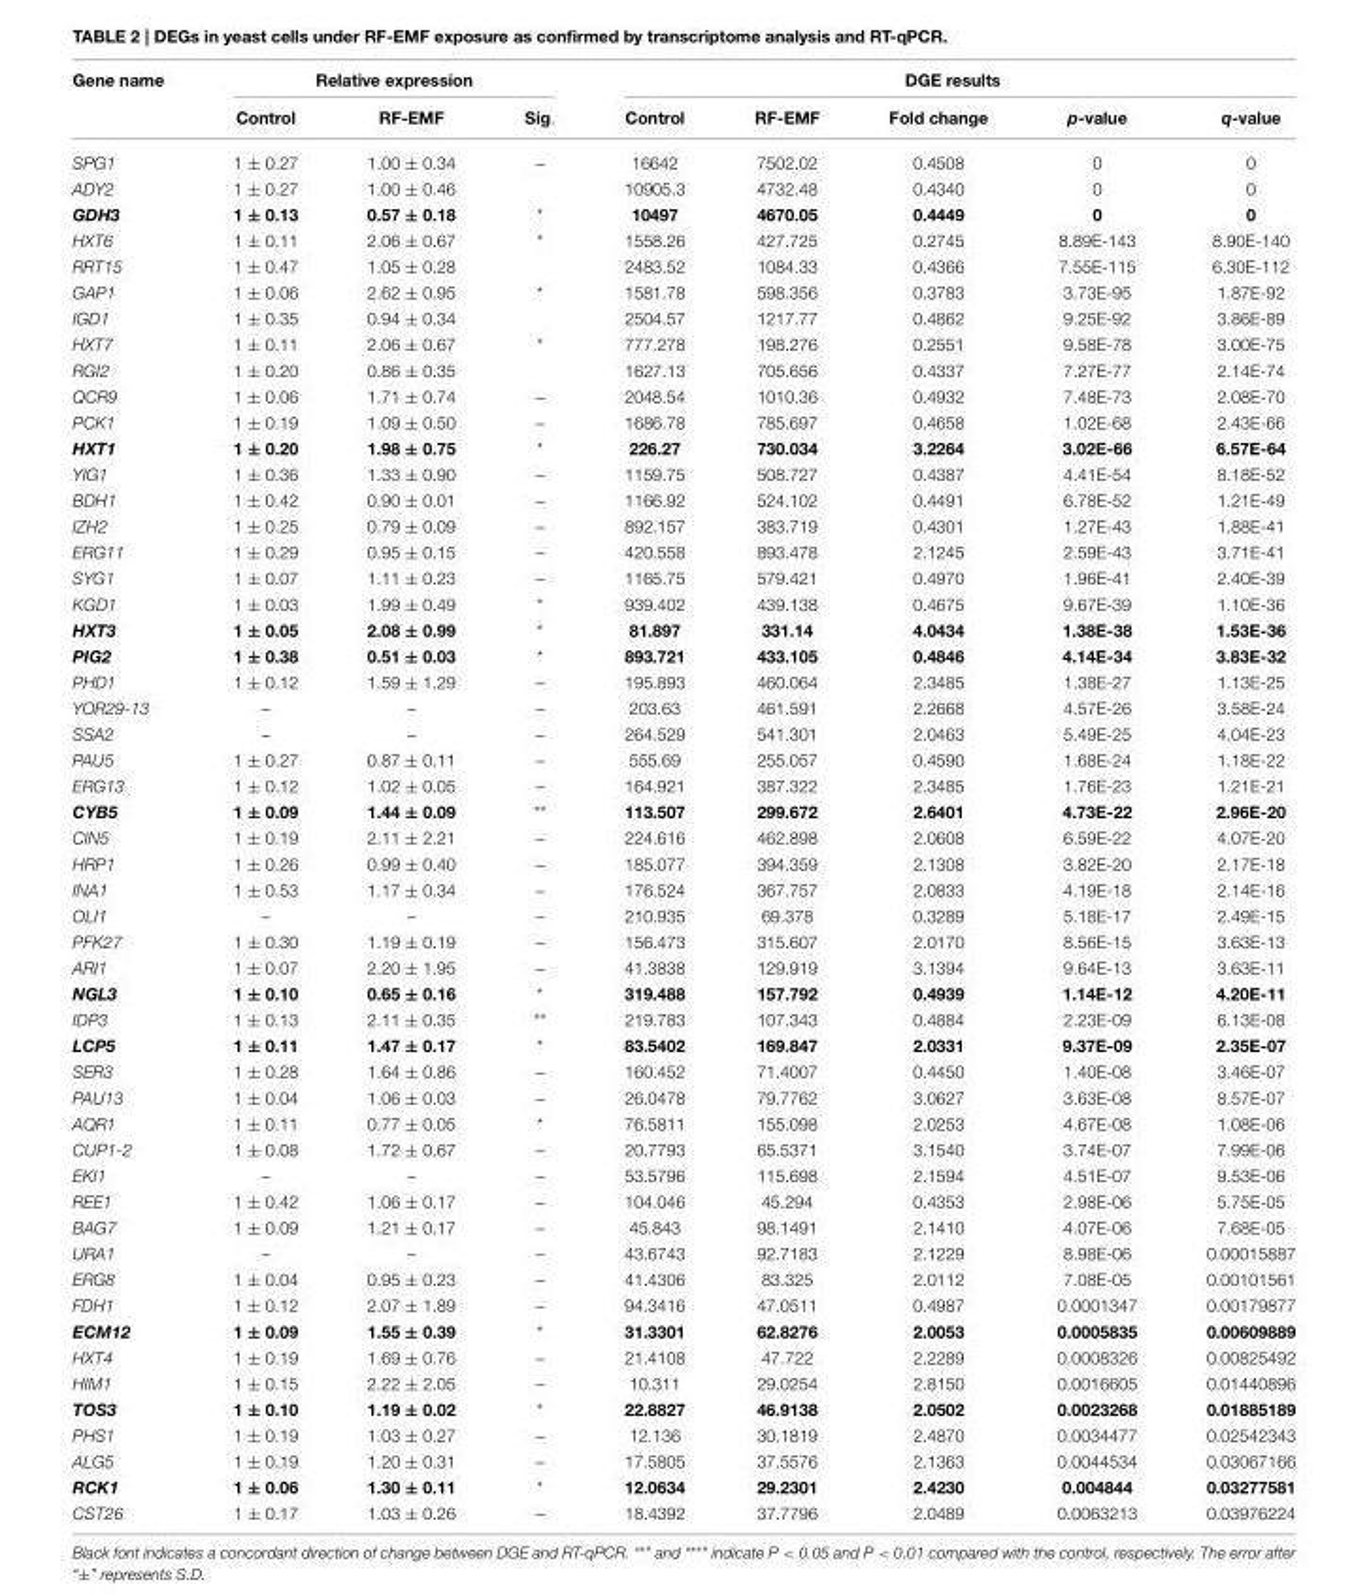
<table><thead><tr><td rowspan="2">Gene name</td><td colspan="3">Relative expression</td><td colspan="5">DGE results</td></tr><tr><td>Control</td><td>RF-EMF</td><td>Sig.</td><td>Control</td><td>RF-EMF</td><td>Fold change</td><td>p-value</td><td>q-value</td></tr></thead><tbody><tr><td>SPG1</td><td>1 ± 0.27</td><td>1.00 ± 0.34</td><td>–</td><td>16642</td><td>7502.02</td><td>0.4508</td><td>0</td><td>0</td></tr><tr><td>ADY2</td><td>1 ± 0.27</td><td>1.00 ± 0.46</td><td></td><td>10905.3</td><td>4732.48</td><td>0.4340</td><td>0</td><td>0</td></tr><tr><td>GDH3</td><td>1 ± 0.13</td><td>0.57 ± 0.18</td><td>*</td><td>10497</td><td>4670.05</td><td>0.4449</td><td>0</td><td>0</td></tr><tr><td>HXT6</td><td>1 ± 0.11</td><td>2.06 ± 0.67</td><td>*</td><td>1558.26</td><td>427.725</td><td>0.2745</td><td>8.89E-143</td><td>8.90E-140</td></tr><tr><td>RRT15</td><td>1 ± 0.47</td><td>1.05 ± 0.28</td><td></td><td>2483.52</td><td>1084.33</td><td>0.4366</td><td>7.55E-115</td><td>6.30E-112</td></tr><tr><td>GAP1</td><td>1 ± 0.06</td><td>2.62 ± 0.95</td><td>*</td><td>1581.78</td><td>598.356</td><td>0.3783</td><td>3.73E-95</td><td>1.87E-92</td></tr><tr><td>IGD1</td><td>1 ± 0.35</td><td>0.94 ± 0.34</td><td></td><td>2504.57</td><td>1217.77</td><td>0.4862</td><td>9.25E-92</td><td>3.86E-89</td></tr><tr><td>HXT7</td><td>1 ± 0.11</td><td>2.06 ± 0.67</td><td>*</td><td>777.278</td><td>198.276</td><td>0.2551</td><td>9.58E-78</td><td>3.00E-75</td></tr><tr><td>RGI2</td><td>1 ± 0.20</td><td>0.86 ± 0.35</td><td></td><td>1627.13</td><td>705.656</td><td>0.4337</td><td>7.27E-77</td><td>2.14E-74</td></tr><tr><td>QCR9</td><td>1 ± 0.06</td><td>1.71 ± 0.74</td><td>–</td><td>2048.54</td><td>1010.36</td><td>0.4932</td><td>7.48E-73</td><td>2.08E-70</td></tr><tr><td>PCK1</td><td>1 ± 0.19</td><td>1.09 ± 0.50</td><td>–</td><td>1686.78</td><td>785.697</td><td>0.4658</td><td>1.02E-68</td><td>2.43E-66</td></tr><tr><td>HXT1</td><td>1 ± 0.20</td><td>1.98 ± 0.75</td><td>*</td><td>226.27</td><td>730.034</td><td>3.2264</td><td>3.02E-66</td><td>6.57E-64</td></tr><tr><td>YIG1</td><td>1 ± 0.36</td><td>1.33 ± 0.90</td><td>–</td><td>1159.75</td><td>508.727</td><td>0.4387</td><td>4.41E-54</td><td>8.18E-52</td></tr><tr><td>BDH1</td><td>1 ± 0.42</td><td>0.90 ± 0.01</td><td>–</td><td>1166.92</td><td>524.102</td><td>0.4491</td><td>6.78E-52</td><td>1.21E-49</td></tr><tr><td>IZH2</td><td>1 ± 0.25</td><td>0.79 ± 0.09</td><td>–</td><td>892.157</td><td>383.719</td><td>0.4301</td><td>1.27E-43</td><td>1.88E-41</td></tr><tr><td>ERG11</td><td>1 ± 0.29</td><td>0.95 ± 0.15</td><td>–</td><td>420.558</td><td>893.478</td><td>2.1245</td><td>2.59E-43</td><td>3.71E-41</td></tr><tr><td>SYG1</td><td>1 ± 0.07</td><td>1.11 ± 0.23</td><td>–</td><td>1165.75</td><td>579.421</td><td>0.4970</td><td>1.96E-41</td><td>2.40E-39</td></tr><tr><td>KGD1</td><td>1 ± 0.03</td><td>1.99 ± 0.49</td><td>*</td><td>939.402</td><td>439.138</td><td>0.4675</td><td>9.67E-39</td><td>1.10E-36</td></tr><tr><td>HXT3</td><td>1 ± 0.05</td><td>2.08 ± 0.99</td><td>*</td><td>81.897</td><td>331.14</td><td>4.0434</td><td>1.38E-38</td><td>1.53E-36</td></tr><tr><td>PIG2</td><td>1 ± 0.38</td><td>0.51 ± 0.03</td><td>*</td><td>893.721</td><td>433.105</td><td>0.4846</td><td>4.14E-34</td><td>3.83E-32</td></tr><tr><td>PHD1</td><td>1 ± 0.12</td><td>1.59 ± 1.29</td><td>–</td><td>195.893</td><td>460.064</td><td>2.3485</td><td>1.38E-27</td><td>1.13E-25</td></tr><tr><td>YOR29-13</td><td>–</td><td>–</td><td>–</td><td>203.63</td><td>461.591</td><td>2.2668</td><td>4.57E-26</td><td>3.58E-24</td></tr><tr><td>SSA2</td><td>–</td><td>–</td><td>–</td><td>264.529</td><td>541.301</td><td>2.0463</td><td>5.49E-25</td><td>4.04E-23</td></tr><tr><td>PAU5</td><td>1 ± 0.27</td><td>0.87 ± 0.11</td><td>–</td><td>555.69</td><td>255.057</td><td>0.4590</td><td>1.68E-24</td><td>1.18E-22</td></tr><tr><td>ERG13</td><td>1 ± 0.12</td><td>1.02 ± 0.05</td><td>–</td><td>164.921</td><td>387.322</td><td>2.3485</td><td>1.76E-23</td><td>1.21E-21</td></tr><tr><td>CYB5</td><td>1 ± 0.09</td><td>1.44 ± 0.09</td><td>**</td><td>113.507</td><td>299.672</td><td>2.6401</td><td>4.73E-22</td><td>2.96E-20</td></tr><tr><td>CIN5</td><td>1 ± 0.19</td><td>2.11 ± 2.21</td><td>–</td><td>224.616</td><td>462.898</td><td>2.0608</td><td>6.59E-22</td><td>4.07E-20</td></tr><tr><td>HRP1</td><td>1 ± 0.26</td><td>0.99 ± 0.40</td><td>–</td><td>185.077</td><td>394.359</td><td>2.1308</td><td>3.82E-20</td><td>2.17E-18</td></tr><tr><td>INA1</td><td>1 ± 0.53</td><td>1.17 ± 0.34</td><td>–</td><td>176.524</td><td>367.757</td><td>2.0833</td><td>4.19E-18</td><td>2.14E-16</td></tr><tr><td>OLI1</td><td>–</td><td>–</td><td>–</td><td>210.935</td><td>69.378</td><td>0.3289</td><td>5.18E-17</td><td>2.49E-15</td></tr><tr><td>PFK27</td><td>1 ± 0.30</td><td>1.19 ± 0.19</td><td>–</td><td>156.473</td><td>315.607</td><td>2.0170</td><td>8.56E-15</td><td>3.63E-13</td></tr><tr><td>ARI1</td><td>1 ± 0.07</td><td>2.20 ± 1.95</td><td>–</td><td>41.3838</td><td>129.919</td><td>3.1394</td><td>9.64E-13</td><td>3.63E-11</td></tr><tr><td>NGL3</td><td>1 ± 0.10</td><td>0.65 ± 0.16</td><td>*</td><td>319.488</td><td>157.792</td><td>0.4939</td><td>1.14E-12</td><td>4.20E-11</td></tr><tr><td>IDP3</td><td>1 ± 0.13</td><td>2.11 ± 0.35</td><td>**</td><td>219.783</td><td>107.343</td><td>0.4884</td><td>2.23E-09</td><td>6.13E-08</td></tr><tr><td>LCP5</td><td>1 ± 0.11</td><td>1.47 ± 0.17</td><td>*</td><td>83.5402</td><td>169.847</td><td>2.0331</td><td>9.37E-09</td><td>2.35E-07</td></tr><tr><td>SER3</td><td>1 ± 0.28</td><td>1.64 ± 0.86</td><td>–</td><td>160.452</td><td>71.4007</td><td>0.4450</td><td>1.40E-08</td><td>3.46E-07</td></tr><tr><td>PAU13</td><td>1 ± 0.04</td><td>1.06 ± 0.03</td><td>–</td><td>26.0478</td><td>79.7762</td><td>3.0627</td><td>3.63E-08</td><td>8.57E-07</td></tr><tr><td>AQR1</td><td>1 ± 0.11</td><td>0.77 ± 0.05</td><td>*</td><td>76.5811</td><td>155.098</td><td>2.0253</td><td>4.67E-08</td><td>1.08E-06</td></tr><tr><td>CUP1-2</td><td>1 ± 0.08</td><td>1.72 ± 0.67</td><td>–</td><td>20.7793</td><td>65.5371</td><td>3.1540</td><td>3.74E-07</td><td>7.99E-06</td></tr><tr><td>EKI1</td><td>–</td><td>–</td><td>–</td><td>53.5796</td><td>115.698</td><td>2.1594</td><td>4.51E-07</td><td>9.53E-06</td></tr><tr><td>REE1</td><td>1 ± 0.42</td><td>1.06 ± 0.17</td><td>–</td><td>104.046</td><td>45.294</td><td>0.4353</td><td>2.98E-06</td><td>5.75E-05</td></tr><tr><td>BAG7</td><td>1 ± 0.09</td><td>1.21 ± 0.17</td><td>–</td><td>45.843</td><td>98.1491</td><td>2.1410</td><td>4.07E-06</td><td>7.68E-05</td></tr><tr><td>URA1</td><td>–</td><td>–</td><td>–</td><td>43.6743</td><td>92.7183</td><td>2.1229</td><td>8.98E-06</td><td>0.00015887</td></tr><tr><td>ERG8</td><td>1 ± 0.04</td><td>0.95 ± 0.23</td><td>–</td><td>41.4306</td><td>83.325</td><td>2.0112</td><td>7.08E-05</td><td>0.00101561</td></tr><tr><td>FDH1</td><td>1 ± 0.12</td><td>2.07 ± 1.89</td><td>–</td><td>94.3416</td><td>47.0511</td><td>0.4987</td><td>0.0001347</td><td>0.00179877</td></tr><tr><td>ECM12</td><td>1 ± 0.09</td><td>1.55 ± 0.39</td><td>*</td><td>31.3301</td><td>62.8276</td><td>2.0053</td><td>0.0005835</td><td>0.00609889</td></tr><tr><td>HXT4</td><td>1 ± 0.19</td><td>1.69 ± 0.76</td><td>–</td><td>21.4108</td><td>47.722</td><td>2.2289</td><td>0.0008326</td><td>0.00825492</td></tr><tr><td>HIM1</td><td>1 ± 0.15</td><td>2.22 ± 2.05</td><td>–</td><td>10.311</td><td>29.0254</td><td>2.8150</td><td>0.0016605</td><td>0.01440896</td></tr><tr><td>TOS3</td><td>1 ± 0.10</td><td>1.19 ± 0.02</td><td>*</td><td>22.8827</td><td>46.9138</td><td>2.0502</td><td>0.0023268</td><td>0.01885189</td></tr><tr><td>PHS1</td><td>1 ± 0.19</td><td>1.03 ± 0.27</td><td>–</td><td>12.136</td><td>30.1819</td><td>2.4870</td><td>0.0034477</td><td>0.02542343</td></tr><tr><td>ALG5</td><td>1 ± 0.19</td><td>1.20 ± 0.31</td><td>–</td><td>17.5805</td><td>37.5576</td><td>2.1363</td><td>0.0044534</td><td>0.03067166</td></tr><tr><td>RCK1</td><td>1 ± 0.06</td><td>1.30 ± 0.11</td><td>*</td><td>12.0634</td><td>29.2301</td><td>2.4230</td><td>0.004844</td><td>0.03277581</td></tr><tr><td>CST26</td><td>1 ± 0.17</td><td>1.03 ± 0.26</td><td>–</td><td>18.4392</td><td>37.7796</td><td>2.0489</td><td>0.0063213</td><td>0.03976224</td></tr></tbody></table>